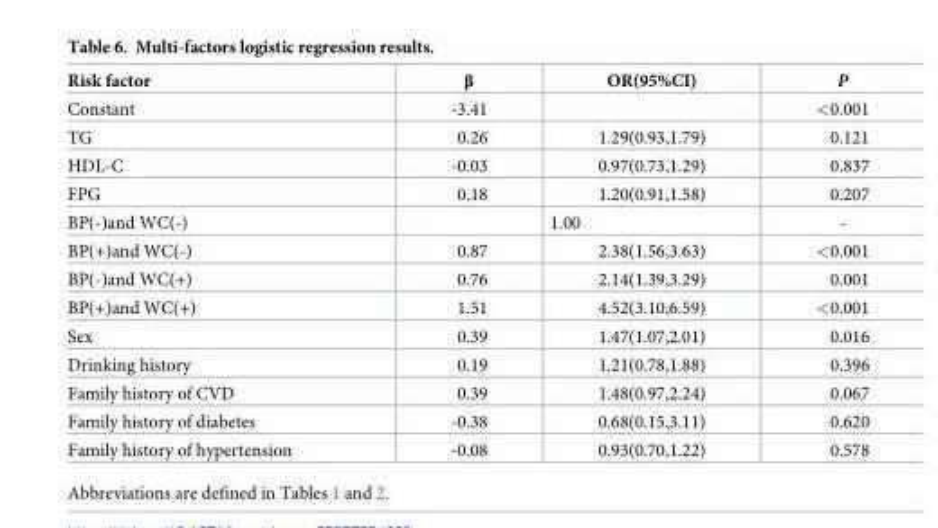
<table><thead><tr><td>Risk factor</td><td>β</td><td>OR(95%CI)</td><td>P</td></tr></thead><tbody><tr><td>Constant</td><td>-3.41</td><td></td><td>&lt;0.001</td></tr><tr><td>TG</td><td>0.26</td><td>1.29(0.93,1.79)</td><td>0.121</td></tr><tr><td>HDL-C</td><td>-0.03</td><td>0.97(0.73,1.29)</td><td>0.837</td></tr><tr><td>FPG</td><td>0.18</td><td>1.20(0.91,1.58)</td><td>0.207</td></tr><tr><td>BP(-)and WC(-)</td><td></td><td>1.00</td><td>-</td></tr><tr><td>BP(+)and WC(-)</td><td>0.87</td><td>2.38(1.56,3.63)</td><td>&lt;0.001</td></tr><tr><td>BP(-)and WC(+)</td><td>0.76</td><td>2.14(1.39,3.29)</td><td>0.001</td></tr><tr><td>BP(+)and WC(+)</td><td>1.51</td><td>4.52(3.10,6.59)</td><td>&lt;0.001</td></tr><tr><td>Sex</td><td>0.39</td><td>1.47(1.07,2.01)</td><td>0.016</td></tr><tr><td>Drinking history</td><td>0.19</td><td>1.21(0.78,1.88)</td><td>0.396</td></tr><tr><td>Family history of CVD</td><td>0.39</td><td>1.48(0.97,2.24)</td><td>0.067</td></tr><tr><td>Family history of diabetes</td><td>-0.38</td><td>0.68(0.15,3.11)</td><td>0.620</td></tr><tr><td>Family history of hypertension</td><td>-0.08</td><td>0.93(0.70,1.22)</td><td>0.578</td></tr></tbody></table>